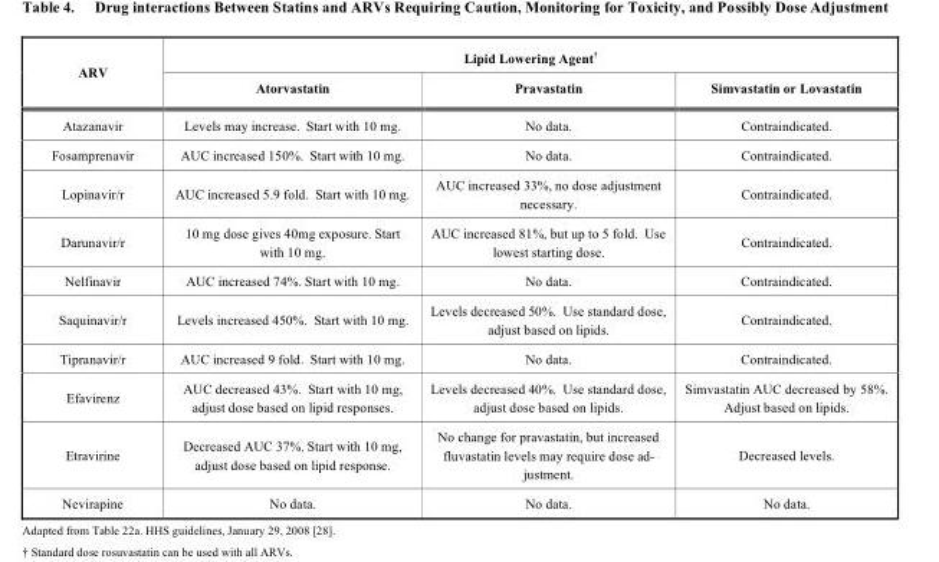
<table><thead><tr><td rowspan="2">ARV</td><td colspan="3">Lipid Lowering Agent†</td></tr><tr><td>Atorvastatin</td><td>Pravastatin</td><td>Simvastatin or Lovastatin</td></tr></thead><tbody><tr><td>Atazanavir</td><td>Levels may increase. Start with 10 mg.</td><td>No data.</td><td>Contraindicated.</td></tr><tr><td>Fosamprenavir</td><td>AUC increased 150%. Start with 10 mg.</td><td>No data.</td><td>Contraindicated.</td></tr><tr><td>Lopinavir/r</td><td>AUC increased 5.9 fold. Start with 10 mg.</td><td>AUC increased 33%, no dose adjustment necessary.</td><td>Contraindicated.</td></tr><tr><td>Darunavir/r</td><td>10 mg dose gives 40mg exposure. Start with 10 mg.</td><td>AUC increased 81%, but up to 5 fold. Use lowest starting dose.</td><td>Contraindicated.</td></tr><tr><td>Nelfinavir</td><td>AUC increased 74%. Start with 10 mg.</td><td>No data.</td><td>Contraindicated.</td></tr><tr><td>Saquinavir/r</td><td>Levels increased 450%. Start with 10 mg.</td><td>Levels decreased 50%. Use standard dose, adjust based on lipids.</td><td>Contraindicated.</td></tr><tr><td>Tipranavir/r</td><td>AUC increased 9 fold. Start with 10 mg.</td><td>No data.</td><td>Contraindicated.</td></tr><tr><td>Efavirenz</td><td>AUC decreased 43%. Start with 10 mg, adjust dose based on lipid responses.</td><td>Levels decreased 40%. Use standard dose, adjust dose based on lipids.</td><td>Simvastatin AUC decreased by 58%. Adjust based on lipids.</td></tr><tr><td>Etravirine</td><td>Decreased AUC 37%. Start with 10 mg, adjust dose based on lipid response.</td><td>No change for pravastatin, but increased fluvastatin levels may require dose ad- justment.</td><td>Decreased levels.</td></tr><tr><td>Nevirapine</td><td>No data.</td><td>No data.</td><td>No data.</td></tr></tbody></table>